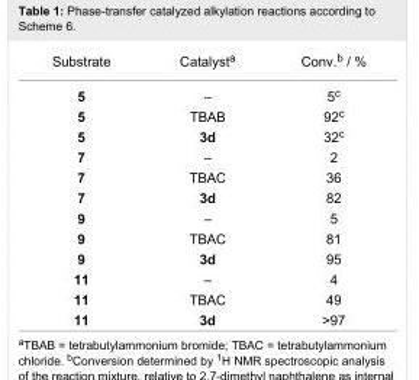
<table><tbody><tr><td>Substrate</td><td>Catalyst<sup>a</sup></td><td>Conv.<sup>b</sup> / %</td></tr><tr><td>5</td><td>–</td><td>5<sup>c</sup></td></tr><tr><td>5</td><td>TBAB</td><td>92<sup>c</sup></td></tr><tr><td>5</td><td>3d</td><td>32<sup>c</sup></td></tr><tr><td>7</td><td>–</td><td>2</td></tr><tr><td>7</td><td>TBAC</td><td>36</td></tr><tr><td>7</td><td>3d</td><td>82</td></tr><tr><td>9</td><td>–</td><td>5</td></tr><tr><td>9</td><td>TBAC</td><td>81</td></tr><tr><td>9</td><td>3d</td><td>95</td></tr><tr><td>11</td><td>–</td><td>4</td></tr><tr><td>11</td><td>TBAC</td><td>49</td></tr><tr><td>11</td><td>3d</td><td>&gt;97</td></tr></tbody></table>